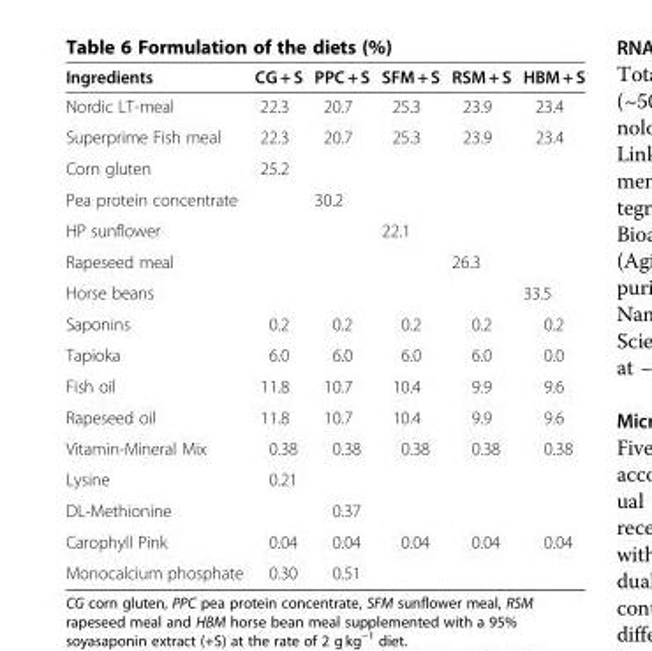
<table><thead><tr><td>Ingredients</td><td>CG + S</td><td>PPC + S</td><td>SFM + S</td><td>RSM + S</td><td>HBM + S</td></tr></thead><tbody><tr><td>Nordic LT-meal</td><td>22.3</td><td>20.7</td><td>25.3</td><td>23.9</td><td>23.4</td></tr><tr><td>Superprime Fish meal</td><td>22.3</td><td>20.7</td><td>25.3</td><td>23.9</td><td>23.4</td></tr><tr><td>Corn gluten</td><td>25.2</td><td></td><td></td><td></td><td></td></tr><tr><td>Pea protein concentrate</td><td></td><td>30.2</td><td></td><td></td><td></td></tr><tr><td>HP sunflower</td><td></td><td></td><td>22.1</td><td></td><td></td></tr><tr><td>Rapeseed meal</td><td></td><td></td><td></td><td>26.3</td><td></td></tr><tr><td>Horse beans</td><td></td><td></td><td></td><td></td><td>33.5</td></tr><tr><td>Saponins</td><td>0.2</td><td>0.2</td><td>0.2</td><td>0.2</td><td>0.2</td></tr><tr><td>Tapioka</td><td>6.0</td><td>6.0</td><td>6.0</td><td>6.0</td><td>0.0</td></tr><tr><td>Fish oil</td><td>11.8</td><td>10.7</td><td>10.4</td><td>9.9</td><td>9.6</td></tr><tr><td>Rapeseed oil</td><td>11.8</td><td>10.7</td><td>10.4</td><td>9.9</td><td>9.6</td></tr><tr><td>Vitamin-Mineral Mix</td><td>0.38</td><td>0.38</td><td>0.38</td><td>0.38</td><td>0.38</td></tr><tr><td>Lysine</td><td>0.21</td><td></td><td></td><td></td><td></td></tr><tr><td>DL-Methionine</td><td></td><td>0.37</td><td></td><td></td><td></td></tr><tr><td>Carophyll Pink</td><td>0.04</td><td>0.04</td><td>0.04</td><td>0.04</td><td>0.04</td></tr><tr><td>Monocalcium phosphate</td><td>0.30</td><td>0.51</td><td></td><td></td><td></td></tr></tbody></table>